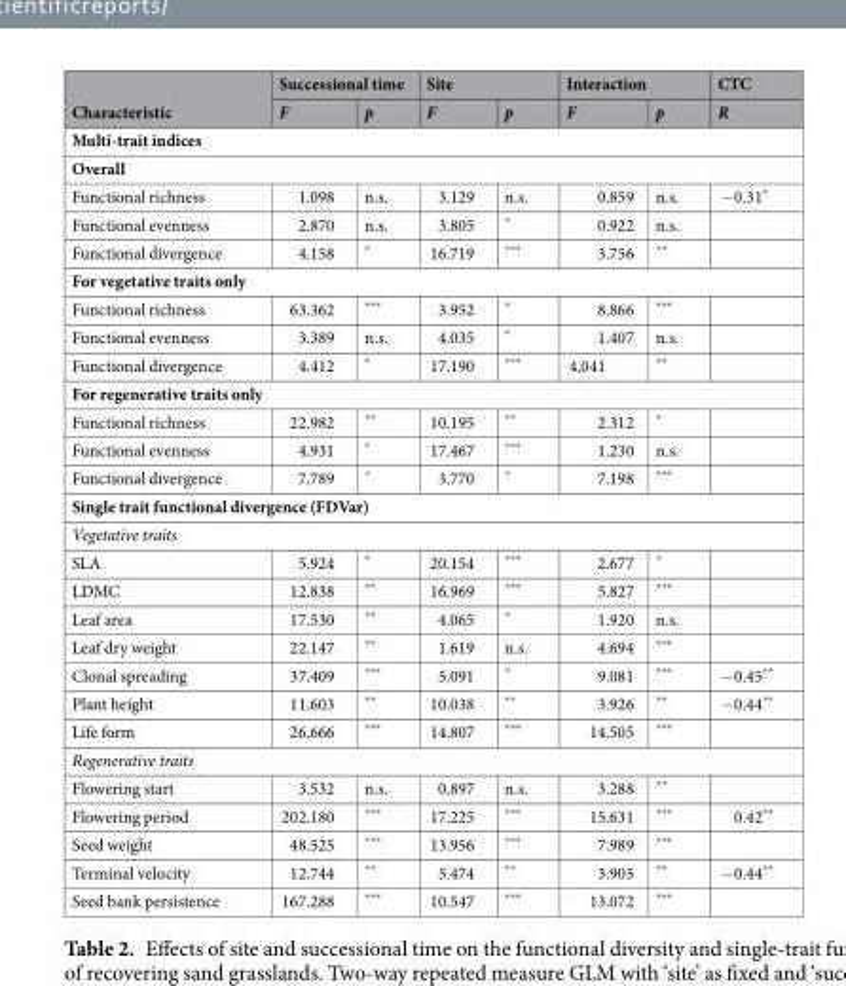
<table><thead><tr><td rowspan="2">Characteristic</td><td colspan="2">Successional time</td><td colspan="2">Site</td><td colspan="2">Interaction</td><td rowspan="2">CTC R</td></tr><tr><td>F</td><td>p</td><td>F</td><td>p</td><td>F</td><td>p</td></tr></thead><tbody><tr><td colspan="8">Multi-trait indices</td></tr><tr><td colspan="8">Overall</td></tr><tr><td>Functional richness</td><td>1.098</td><td>n.s.</td><td>3.129</td><td>n.s.</td><td>0.859</td><td>n.s.</td><td>−0.31*</td></tr><tr><td>Functional evenness</td><td>2.870</td><td>n.s.</td><td>3.805</td><td>*</td><td>0.922</td><td>n.s.</td><td></td></tr><tr><td>Functional divergence</td><td>4.158</td><td>*</td><td>16.719</td><td>***</td><td>3.756</td><td>**</td><td></td></tr><tr><td colspan="8">For vegetative traits only</td></tr><tr><td>Functional richness</td><td>63.362</td><td>***</td><td>3.952</td><td>*</td><td>8.866</td><td>***</td><td></td></tr><tr><td>Functional evenness</td><td>3.389</td><td>n.s.</td><td>4.035</td><td>*</td><td>1.407</td><td>n.s.</td><td></td></tr><tr><td>Functional divergence</td><td>4.412</td><td>*</td><td>17.190</td><td>***</td><td>4,041</td><td>**</td><td></td></tr><tr><td colspan="8">For regenerative traits only</td></tr><tr><td>Functional richness</td><td>22.982</td><td>**</td><td>10.195</td><td>**</td><td>2.312</td><td>*</td><td></td></tr><tr><td>Functional evenness</td><td>4.931</td><td>*</td><td>17.467</td><td>***</td><td>1.230</td><td>n.s.</td><td></td></tr><tr><td>Functional divergence</td><td>7.789</td><td>*</td><td>3.770</td><td>*</td><td>7.198</td><td>***</td><td></td></tr><tr><td colspan="8">Single trait functional divergence (FDVar)</td></tr><tr><td colspan="8">Vegetative traits</td></tr><tr><td>SLA</td><td>5.924</td><td>*</td><td>20.154</td><td>***</td><td>2.677</td><td>*</td><td></td></tr><tr><td>LDMC</td><td>12.838</td><td>**</td><td>16.969</td><td>***</td><td>5.827</td><td>***</td><td></td></tr><tr><td>Leaf area</td><td>17.530</td><td>**</td><td>4.065</td><td>*</td><td>1.920</td><td>n.s.</td><td></td></tr><tr><td>Leaf dry weight</td><td>22.147</td><td>**</td><td>1.619</td><td>n.s.</td><td>4.694</td><td>***</td><td></td></tr><tr><td>Clonal spreading</td><td>37.409</td><td>***</td><td>5.091</td><td>*</td><td>9.081</td><td>***</td><td>−0.45**</td></tr><tr><td>Plant height</td><td>11.603</td><td>**</td><td>10.038</td><td>**</td><td>3.926</td><td>**</td><td>−0.44**</td></tr><tr><td>Life form</td><td>26.666</td><td>***</td><td>14.807</td><td>***</td><td>14.505</td><td>***</td><td></td></tr><tr><td colspan="8">Regenerative traits</td></tr><tr><td>Flowering start</td><td>3.532</td><td>n.s.</td><td>0.897</td><td>n.s.</td><td>3.288</td><td>**</td><td></td></tr><tr><td>Flowering period</td><td>202.180</td><td>***</td><td>17.225</td><td>***</td><td>15.631</td><td>***</td><td>0.42**</td></tr><tr><td>Seed weight</td><td>48.525</td><td>***</td><td>13.956</td><td>***</td><td>7.989</td><td>***</td><td></td></tr><tr><td>Terminal velocity</td><td>12.744</td><td>**</td><td>5.474</td><td>**</td><td>3.905</td><td>**</td><td>−0.44**</td></tr><tr><td>Seed bank persistence</td><td>167.288</td><td>***</td><td>10.547</td><td>***</td><td>13.072</td><td>***</td><td></td></tr></tbody></table>